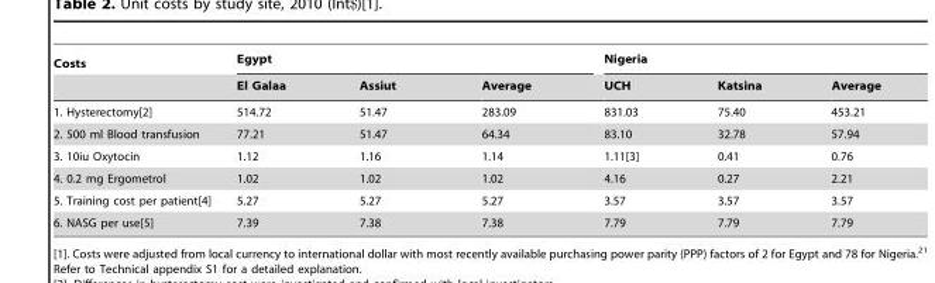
<table><thead><tr><td rowspan="2">Costs</td><td colspan="3">Egypt</td><td colspan="3">Nigeria</td></tr><tr><td>El Galaa</td><td>Assiut</td><td>Average</td><td>UCH</td><td>Katsina</td><td>Average</td></tr></thead><tbody><tr><td>1. Hysterectomy[2]</td><td>514.72</td><td>51.47</td><td>283.09</td><td>831.03</td><td>75.40</td><td>453.21</td></tr><tr><td>2. 500 ml Blood transfusion</td><td>77.21</td><td>51.47</td><td>64.34</td><td>83.10</td><td>32.78</td><td>57.94</td></tr><tr><td>3. 10iu Oxytocin</td><td>1.12</td><td>1.16</td><td>1.14</td><td>1.11[3]</td><td>0.41</td><td>0.76</td></tr><tr><td>4. 0.2 mg Ergometrol</td><td>1.02</td><td>1.02</td><td>1.02</td><td>4.16</td><td>0.27</td><td>2.21</td></tr><tr><td>5. Training cost per patient[4]</td><td>5.27</td><td>5.27</td><td>5.27</td><td>3.57</td><td>3.57</td><td>3.57</td></tr><tr><td>6. NASG per use[5]</td><td>7.39</td><td>7.38</td><td>7.38</td><td>7.79</td><td>7.79</td><td>7.79</td></tr></tbody></table>